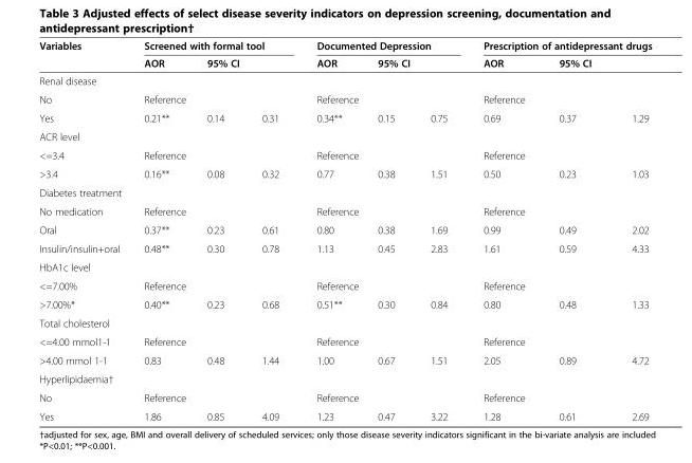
<table><thead><tr><td rowspan="3">Variables Renal disease</td><td colspan="3">Screened with formal tool</td><td colspan="3">Documented Depression</td><td colspan="3">Prescription of antidepressant drugs</td></tr><tr><td rowspan="2">AOR</td><td colspan="2">95% CI</td><td rowspan="2">AOR</td><td colspan="2">95% CI</td><td rowspan="2">AOR</td><td colspan="2">95% CI</td></tr><tr><td></td><td></td><td></td><td></td><td></td><td></td></tr></thead><tbody><tr><td>No</td><td colspan="2">Reference</td><td></td><td colspan="2">Reference</td><td></td><td colspan="2">Reference</td><td></td></tr><tr><td>Yes</td><td>0.21**</td><td>0.14</td><td>0.31</td><td>0.34**</td><td>0.15</td><td>0.75</td><td>0.69</td><td>0.37</td><td>1.29</td></tr><tr><td colspan="10">ACR level</td></tr><tr><td>&lt;=3.4</td><td colspan="2">Reference</td><td></td><td colspan="2">Reference</td><td></td><td colspan="2">Reference</td><td></td></tr><tr><td>&gt;3.4</td><td>0.16**</td><td>0.08</td><td>0.32</td><td>0.77</td><td>0.38</td><td>1.51</td><td>0.50</td><td>0.23</td><td>1.03</td></tr><tr><td colspan="10">Diabetes treatment</td></tr><tr><td>No medication</td><td colspan="2">Reference</td><td></td><td colspan="2">Reference</td><td></td><td colspan="2">Reference</td><td></td></tr><tr><td>Oral</td><td>0.37**</td><td>0.23</td><td>0.61</td><td>0.80</td><td>0.38</td><td>1.69</td><td>0.99</td><td>0.49</td><td>2.02</td></tr><tr><td>Insulin/insulin+oral</td><td>0.48**</td><td>0.30</td><td>0.78</td><td>1.13</td><td>0.45</td><td>2.83</td><td>1.61</td><td>0.59</td><td>4.33</td></tr><tr><td colspan="10">HbA1c level</td></tr><tr><td>&lt;=7.00%</td><td colspan="2">Reference</td><td></td><td colspan="2">Reference</td><td></td><td colspan="2">Reference</td><td></td></tr><tr><td>&gt;7.00%*</td><td>0.40**</td><td>0.23</td><td>0.68</td><td>0.51**</td><td>0.30</td><td>0.84</td><td>0.80</td><td>0.48</td><td>1.33</td></tr><tr><td colspan="10">Total cholesterol</td></tr><tr><td>&lt;=4.00 mmol1-1</td><td colspan="2">Reference</td><td></td><td colspan="2">Reference</td><td></td><td colspan="2">Reference</td><td></td></tr><tr><td>&gt;4.00 mmol 1-1</td><td>0.83</td><td>0.48</td><td>1.44</td><td>1.00</td><td>0.67</td><td>1.51</td><td>2.05</td><td>0.89</td><td>4.72</td></tr><tr><td colspan="10">Hyperlipidaemia†</td></tr><tr><td>No</td><td colspan="2">Reference</td><td></td><td colspan="2">Reference</td><td></td><td colspan="2">Reference</td><td></td></tr><tr><td>Yes</td><td>1.86</td><td>0.85</td><td>4.09</td><td>1.23</td><td>0.47</td><td>3.22</td><td>1.28</td><td>0.61</td><td>2.69</td></tr></tbody></table>